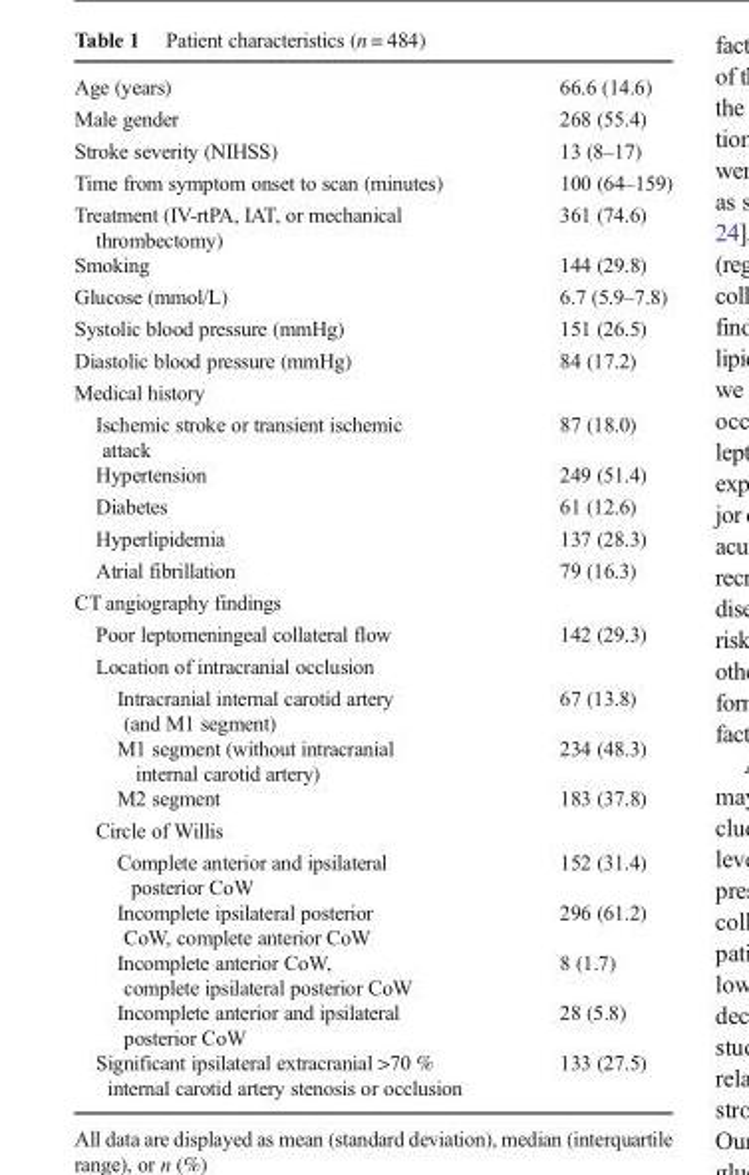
<table><tbody><tr><td>Age (years)</td><td>66.6 (14.6)</td></tr><tr><td>Male gender</td><td>268 (55.4)</td></tr><tr><td>Stroke severity (NIHSS)</td><td>13 (8–17)</td></tr><tr><td>Time from symptom onset to scan (minutes)</td><td>100 (64–159)</td></tr><tr><td>Treatment (IV-rtPA, IAT, or mechanical thrombectomy)</td><td>361 (74.6)</td></tr><tr><td>Smoking</td><td>144 (29.8)</td></tr><tr><td>Glucose (mmol/L)</td><td>6.7 (5.9–7.8)</td></tr><tr><td>Systolic blood pressure (mmHg)</td><td>151 (26.5)</td></tr><tr><td>Diastolic blood pressure (mmHg)</td><td>84 (17.2)</td></tr><tr><td colspan="2">Medical history</td></tr><tr><td>Ischemic stroke or transient ischemic attack</td><td>87 (18.0)</td></tr><tr><td>Hypertension</td><td>249 (51.4)</td></tr><tr><td>Diabetes</td><td>61 (12.6)</td></tr><tr><td>Hyperlipidemia</td><td>137 (28.3)</td></tr><tr><td>Atrial fibrillation</td><td>79 (16.3)</td></tr><tr><td colspan="2">CT angiography findings</td></tr><tr><td>Poor leptomeningeal collateral flow</td><td>142 (29.3)</td></tr><tr><td colspan="2">Location of intracranial occlusion</td></tr><tr><td>Intracranial internal carotid artery (and M1 segment)</td><td>67 (13.8)</td></tr><tr><td>M1 segment (without intracranial internal carotid artery)</td><td>234 (48.3)</td></tr><tr><td>M2 segment</td><td>183 (37.8)</td></tr><tr><td colspan="2">Circle of Willis</td></tr><tr><td>Complete anterior and ipsilateral posterior CoW</td><td>152 (31.4)</td></tr><tr><td>Incomplete ipsilateral posterior CoW, complete anterior CoW</td><td>296 (61.2)</td></tr><tr><td>Incomplete anterior CoW, complete ipsilateral posterior CoW</td><td>8 (1.7)</td></tr><tr><td>Incomplete anterior and ipsilateral posterior CoW</td><td>28 (5.8)</td></tr><tr><td>Significant ipsilateral extracranial &gt;70 % internal carotid artery stenosis or occlusion</td><td>133 (27.5)</td></tr></tbody></table>